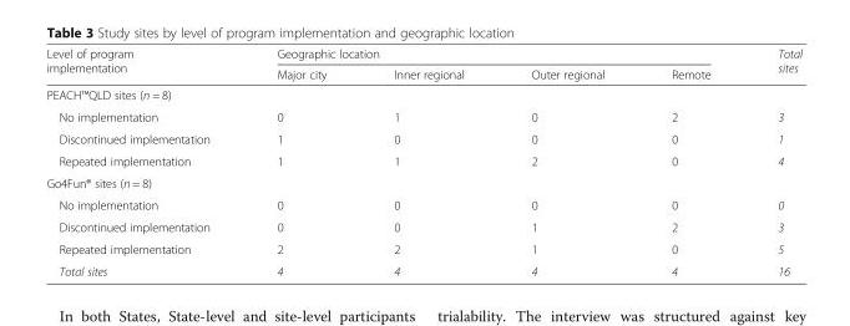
<table><thead><tr><td rowspan="2">Level of program implementation</td><td colspan="4">Geographic location</td><td rowspan="2">Total sites</td></tr><tr><td>Major city</td><td>Inner regional</td><td>Outer regional</td><td>Remote</td></tr></thead><tbody><tr><td colspan="6">PEACH™QLD sites (n = 8)</td></tr><tr><td>No implementation</td><td>0</td><td>1</td><td>0</td><td>2</td><td>3</td></tr><tr><td>Discontinued implementation</td><td>1</td><td>0</td><td>0</td><td>0</td><td>1</td></tr><tr><td>Repeated implementation</td><td>1</td><td>1</td><td>2</td><td>0</td><td>4</td></tr><tr><td colspan="6">Go4Fun® sites (n = 8)</td></tr><tr><td>No implementation</td><td>0</td><td>0</td><td>0</td><td>0</td><td>0</td></tr><tr><td>Discontinued implementation</td><td>0</td><td>0</td><td>1</td><td>2</td><td>3</td></tr><tr><td>Repeated implementation</td><td>2</td><td>2</td><td>1</td><td>0</td><td>5</td></tr><tr><td>Total sites</td><td>4</td><td>4</td><td>4</td><td>4</td><td>16</td></tr></tbody></table>